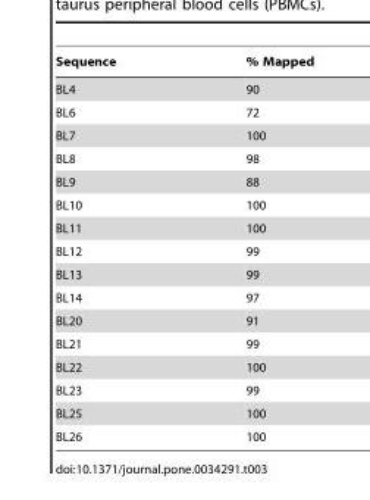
<table><thead><tr><td>Sequence</td><td>% Mapped</td></tr></thead><tbody><tr><td>BL4</td><td>90</td></tr><tr><td>BL6</td><td>72</td></tr><tr><td>BL7</td><td>100</td></tr><tr><td>BL8</td><td>98</td></tr><tr><td>BL9</td><td>88</td></tr><tr><td>BL10</td><td>100</td></tr><tr><td>BL11</td><td>100</td></tr><tr><td>BL12</td><td>99</td></tr><tr><td>BL13</td><td>99</td></tr><tr><td>BL14</td><td>97</td></tr><tr><td>BL20</td><td>91</td></tr><tr><td>BL21</td><td>99</td></tr><tr><td>BL22</td><td>100</td></tr><tr><td>BL23</td><td>99</td></tr><tr><td>BL25</td><td>100</td></tr><tr><td>BL26</td><td>100</td></tr></tbody></table>